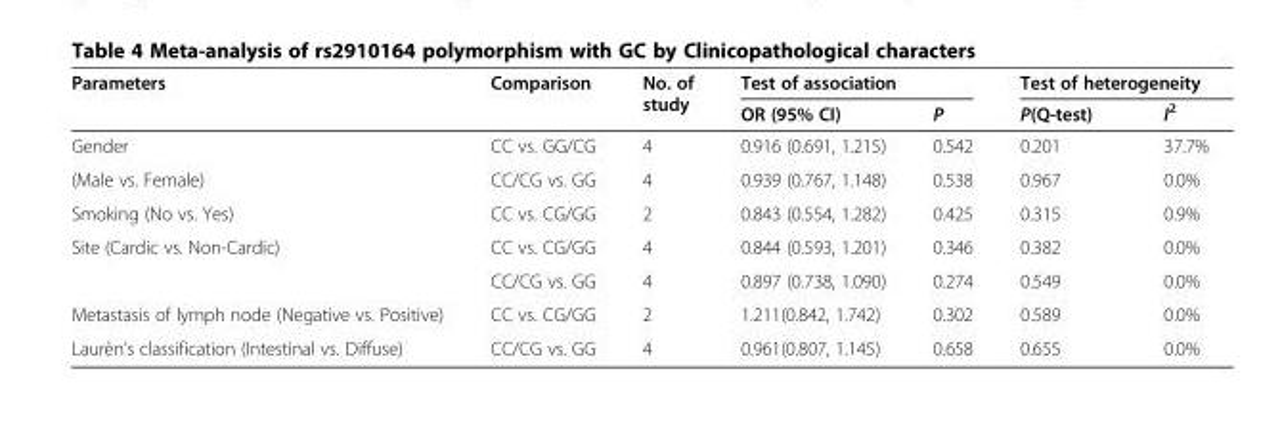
<table><thead><tr><td rowspan="2">Parameters</td><td rowspan="2">Comparison</td><td rowspan="2">No. of study</td><td colspan="2">Test of association</td><td colspan="2">Test of heterogeneity</td></tr><tr><td>OR (95% CI)</td><td>P</td><td>P(Q-test)</td><td>I<sup>2</sup></td></tr></thead><tbody><tr><td>Gender</td><td>CC vs. GG/CG</td><td>4</td><td>0.916 (0.691, 1.215)</td><td>0.542</td><td>0.201</td><td>37.7%</td></tr><tr><td>(Male vs. Female)</td><td>CC/CG vs. GG</td><td>4</td><td>0.939 (0.767, 1.148)</td><td>0.538</td><td>0.967</td><td>0.0%</td></tr><tr><td>Smoking (No vs. Yes)</td><td>CC vs. CG/GG</td><td>2</td><td>0.843 (0.554, 1.282)</td><td>0.425</td><td>0.315</td><td>0.9%</td></tr><tr><td rowspan="2">Site (Cardic vs. Non-Cardic)</td><td>CC vs. CG/GG</td><td>4</td><td>0.844 (0.593, 1.201)</td><td>0.346</td><td>0.382</td><td>0.0%</td></tr><tr><td>CC/CG vs. GG</td><td>4</td><td>0.897 (0.738, 1.090)</td><td>0.274</td><td>0.549</td><td>0.0%</td></tr><tr><td>Metastasis of lymph node (Negative vs. Positive)</td><td>CC vs. CG/GG</td><td>2</td><td>1.211(0.842, 1.742)</td><td>0.302</td><td>0.589</td><td>0.0%</td></tr><tr><td>Laurèn’s classification (Intestinal vs. Diffuse)</td><td>CC/CG vs. GG</td><td>4</td><td>0.961(0.807, 1.145)</td><td>0.658</td><td>0.655</td><td>0.0%</td></tr></tbody></table>